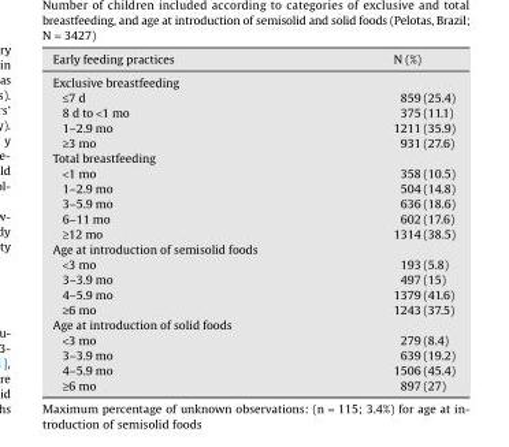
<table><thead><tr><td>Early feeding practices</td><td>N (%)</td></tr></thead><tbody><tr><td colspan="2">Exclusive breastfeeding</td></tr><tr><td>≤7 d</td><td>859 (25.4)</td></tr><tr><td>8 d to &lt;1 mo</td><td>375 (11.1)</td></tr><tr><td>1–2.9 mo</td><td>1211 (35.9)</td></tr><tr><td>≥3 mo</td><td>931 (27.6)</td></tr><tr><td colspan="2">Total breastfeeding</td></tr><tr><td>&lt;1 mo</td><td>358 (10.5)</td></tr><tr><td>1–2.9 mo</td><td>504 (14.8)</td></tr><tr><td>3–5.9 mo</td><td>636 (18.6)</td></tr><tr><td>6–11 mo</td><td>602 (17.6)</td></tr><tr><td>≥12 mo</td><td>1314 (38.5)</td></tr><tr><td colspan="2">Age at introduction of semisolid foods</td></tr><tr><td>&lt;3 mo</td><td>193 (5.8)</td></tr><tr><td>3–3.9 mo</td><td>497 (15)</td></tr><tr><td>4–5.9 mo</td><td>1379 (41.6)</td></tr><tr><td>≥6 mo</td><td>1243 (37.5)</td></tr><tr><td colspan="2">Age at introduction of solid foods</td></tr><tr><td>&lt;3 mo</td><td>279 (8.4)</td></tr><tr><td>3–3.9 mo</td><td>639 (19.2)</td></tr><tr><td>4–5.9 mo</td><td>1506 (45.4)</td></tr><tr><td>≥6 mo</td><td>897 (27)</td></tr></tbody></table>